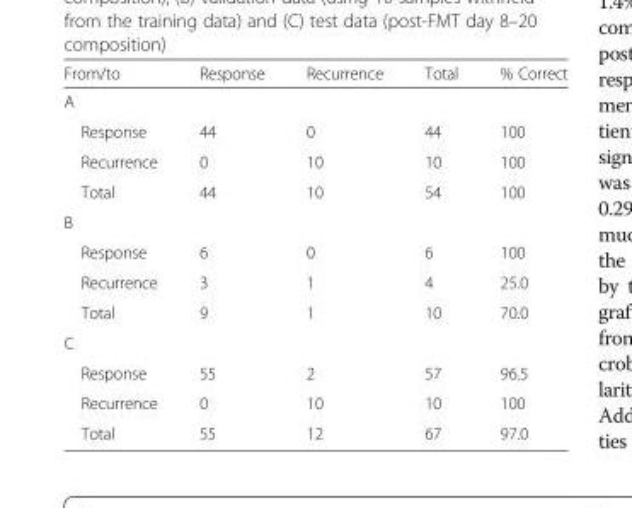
<table><thead><tr><td>From/to</td><td>Response</td><td>Recurrence</td><td>Total</td><td>% Correct</td></tr></thead><tbody><tr><td colspan="5">A</td></tr><tr><td>Response</td><td>44</td><td>0</td><td>44</td><td>100</td></tr><tr><td>Recurrence</td><td>0</td><td>10</td><td>10</td><td>100</td></tr><tr><td>Total</td><td>44</td><td>10</td><td>54</td><td>100</td></tr><tr><td colspan="5">B</td></tr><tr><td>Response</td><td>6</td><td>0</td><td>6</td><td>100</td></tr><tr><td>Recurrence</td><td>3</td><td>1</td><td>4</td><td>25.0</td></tr><tr><td>Total</td><td>9</td><td>1</td><td>10</td><td>70.0</td></tr><tr><td colspan="5">C</td></tr><tr><td>Response</td><td>55</td><td>2</td><td>57</td><td>96.5</td></tr><tr><td>Recurrence</td><td>0</td><td>10</td><td>10</td><td>100</td></tr><tr><td>Total</td><td>55</td><td>12</td><td>67</td><td>97.0</td></tr></tbody></table>